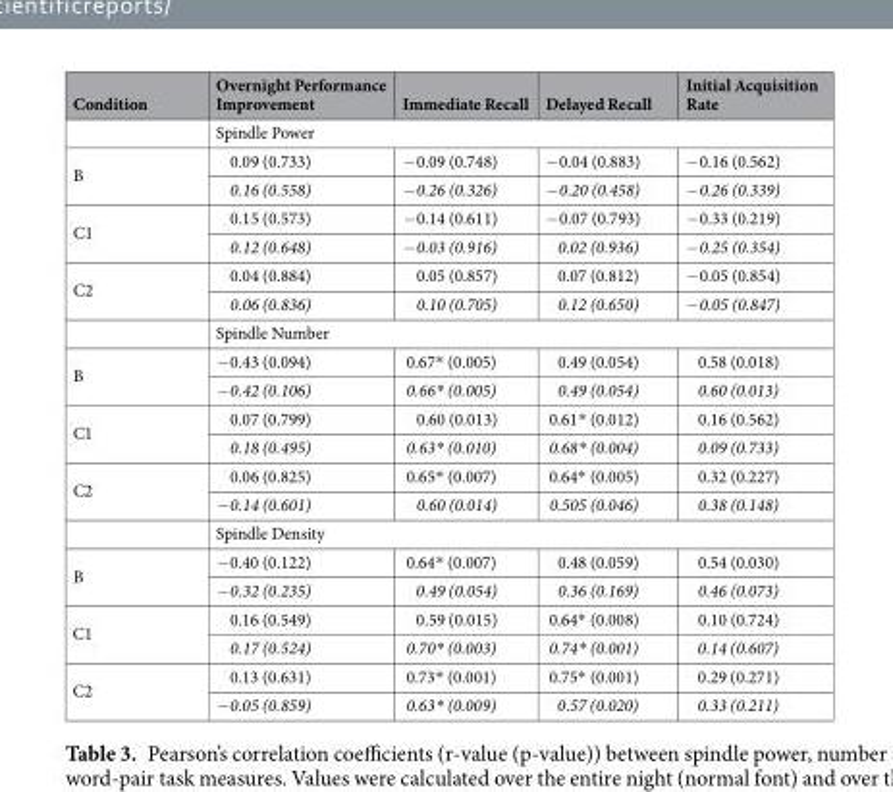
<table><thead><tr><td>Condition</td><td>Overnight Performance Improvement</td><td>Immediate Recall</td><td>Delayed Recall</td><td>Initial Acquisition Rate</td></tr></thead><tbody><tr><td></td><td colspan="4">Spindle Power</td></tr><tr><td rowspan="2">B</td><td>0.09 (0.733)</td><td>−0.09 (0.748)</td><td>−0.04 (0.883)</td><td>−0.16 (0.562)</td></tr><tr><td>0.16 (0.558)</td><td>−0.26 (0.326)</td><td>−0.20 (0.458)</td><td>−0.26 (0.339)</td></tr><tr><td rowspan="2">C1</td><td>0.15 (0.573)</td><td>−0.14 (0.611)</td><td>−0.07 (0.793)</td><td>−0.33 (0.219)</td></tr><tr><td>0.12 (0.648)</td><td>−0.03 (0.916)</td><td>0.02 (0.936)</td><td>−0.25 (0.354)</td></tr><tr><td rowspan="3">C2</td><td>0.04 (0.884)</td><td>0.05 (0.857)</td><td>0.07 (0.812)</td><td>−0.05 (0.854)</td></tr><tr><td>0.06 (0.836)</td><td>0.10 (0.705)</td><td>0.12 (0.650)</td><td>−0.05 (0.847)</td></tr><tr><td colspan="4">Spindle Number</td></tr><tr><td rowspan="2">B</td><td>−0.43 (0.094)</td><td>0.67* (0.005)</td><td>0.49 (0.054)</td><td>0.58 (0.018)</td></tr><tr><td>−0.42 (0.106)</td><td>0.66* (0.005)</td><td>0.49 (0.054)</td><td>0.60 (0.013)</td></tr><tr><td rowspan="2">C1</td><td>0.07 (0.799)</td><td>0.60 (0.013)</td><td>0.61* (0.012)</td><td>0.16 (0.562)</td></tr><tr><td>0.18 (0.495)</td><td>0.63* (0.010)</td><td>0.68* (0.004)</td><td>0.09 (0.733)</td></tr><tr><td rowspan="3">C2</td><td>0.06 (0.825)</td><td>0.65* (0.007)</td><td>0.64* (0.005)</td><td>0.32 (0.227)</td></tr><tr><td>−0.14 (0.601)</td><td>0.60 (0.014)</td><td>0.505 (0.046)</td><td>0.38 (0.148)</td></tr><tr><td colspan="4">Spindle Density</td></tr><tr><td rowspan="2">B</td><td>−0.40 (0.122)</td><td>0.64* (0.007)</td><td>0.48 (0.059)</td><td>0.54 (0.030)</td></tr><tr><td>−0.32 (0.235)</td><td>0.49 (0.054)</td><td>0.36 (0.169)</td><td>0.46 (0.073)</td></tr><tr><td rowspan="2">C1</td><td>0.16 (0.549)</td><td>0.59 (0.015)</td><td>0.64* (0.008)</td><td>0.10 (0.724)</td></tr><tr><td>0.17 (0.524)</td><td>0.70* (0.003)</td><td>0.74* (0.001)</td><td>0.14 (0.607)</td></tr><tr><td rowspan="2">C2</td><td>0.13 (0.631)</td><td>0.73* (0.001)</td><td>0.75* (0.001)</td><td>0.29 (0.271)</td></tr><tr><td>−0.05 (0.859)</td><td>0.63* (0.009)</td><td>0.57 (0.020)</td><td>0.33 (0.211)</td></tr></tbody></table>